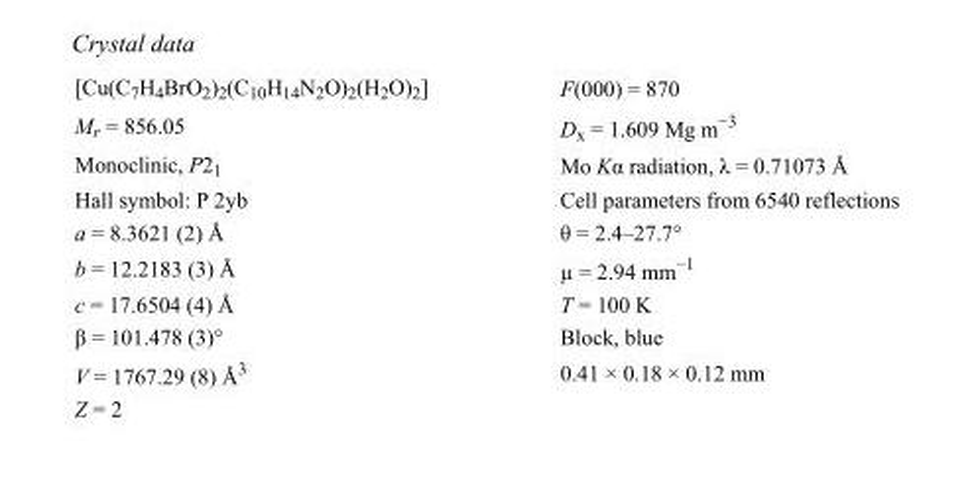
<table><tbody><tr><td>[Cu(C<sub>7</sub>H<sub>4</sub>BrO<sub>2</sub>)<sub>2</sub>(C<sub>10</sub>H<sub>14</sub>N<sub>2</sub>O)<sub>2</sub>(H<sub>2</sub>O)<sub>2</sub>]</td><td>F(000) = 870</td></tr><tr><td>M<sub>r</sub> = 856.05</td><td>D<sub>x</sub> = 1.609 Mg m<sup>−3</sup></td></tr><tr><td>Monoclinic, P2<sub>1</sub></td><td>Mo Kα radiation, λ = 0.71073 Å</td></tr><tr><td>Hall symbol: P 2yb</td><td>Cell parameters from 6540 reflections</td></tr><tr><td>a = 8.3621 (2) Å</td><td>θ = 2.4–27.7°</td></tr><tr><td>b = 12.2183 (3) Å</td><td>µ = 2.94 mm<sup>−1</sup></td></tr><tr><td>c = 17.6504 (4) Å</td><td>T = 100 K</td></tr><tr><td>β = 101.478 (3)°</td><td>Block, blue</td></tr><tr><td>V = 1767.29 (8) Å<sup>3</sup></td><td>0.41 × 0.18 × 0.12 mm</td></tr><tr><td>Z = 2</td><td></td></tr></tbody></table>